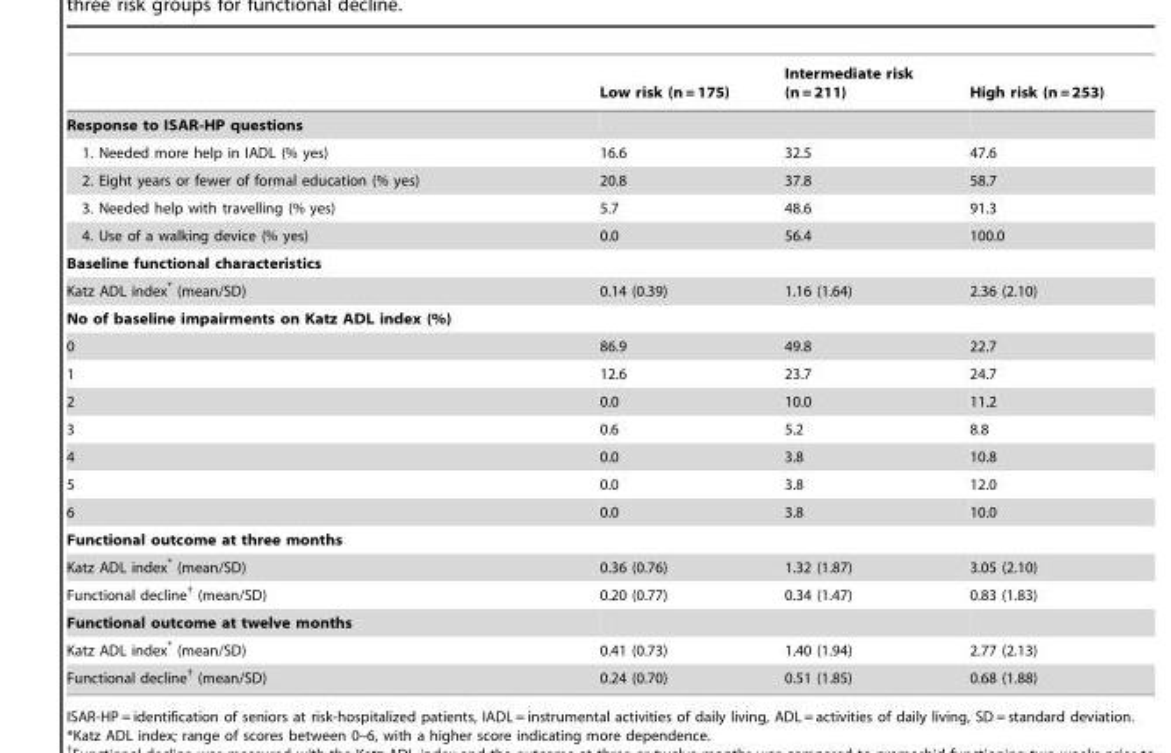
<table><thead><tr><td></td><td>Low risk (n = 175)</td><td>Intermediate risk (n = 211)</td><td>High risk (n = 253)</td></tr></thead><tbody><tr><td colspan="4">Response to ISAR-HP questions</td></tr><tr><td>1. Needed more help in IADL (% yes)</td><td>16.6</td><td>32.5</td><td>47.6</td></tr><tr><td>2. Eight years or fewer of formal education (% yes)</td><td>20.8</td><td>37.8</td><td>58.7</td></tr><tr><td>3. Needed help with travelling (% yes)</td><td>5.7</td><td>48.6</td><td>91.3</td></tr><tr><td>4. Use of a walking device (% yes)</td><td>0.0</td><td>56.4</td><td>100.0</td></tr><tr><td colspan="4">Baseline functional characteristics</td></tr><tr><td>Katz ADL index* (mean/SD)</td><td>0.14 (0.39)</td><td>1.16 (1.64)</td><td>2.36 (2.10)</td></tr><tr><td colspan="4">No of baseline impairments on Katz ADL index (%)</td></tr><tr><td>0</td><td>86.9</td><td>49.8</td><td>22.7</td></tr><tr><td>1</td><td>12.6</td><td>23.7</td><td>24.7</td></tr><tr><td>2</td><td>0.0</td><td>10.0</td><td>11.2</td></tr><tr><td>3</td><td>0.6</td><td>5.2</td><td>8.8</td></tr><tr><td>4</td><td>0.0</td><td>3.8</td><td>10.8</td></tr><tr><td>5</td><td>0.0</td><td>3.8</td><td>12.0</td></tr><tr><td>6</td><td>0.0</td><td>3.8</td><td>10.0</td></tr><tr><td colspan="4">Functional outcome at three months</td></tr><tr><td>Katz ADL index* (mean/SD)</td><td>0.36 (0.76)</td><td>1.32 (1.87)</td><td>3.05 (2.10)</td></tr><tr><td>Functional decline† (mean/SD)</td><td>0.20 (0.77)</td><td>0.34 (1.47)</td><td>0.83 (1.83)</td></tr><tr><td colspan="4">Functional outcome at twelve months</td></tr><tr><td>Katz ADL index* (mean/SD)</td><td>0.41 (0.73)</td><td>1.40 (1.94)</td><td>2.77 (2.13)</td></tr><tr><td>Functional decline† (mean/SD)</td><td>0.24 (0.70)</td><td>0.51 (1.85)</td><td>0.68 (1.88)</td></tr></tbody></table>